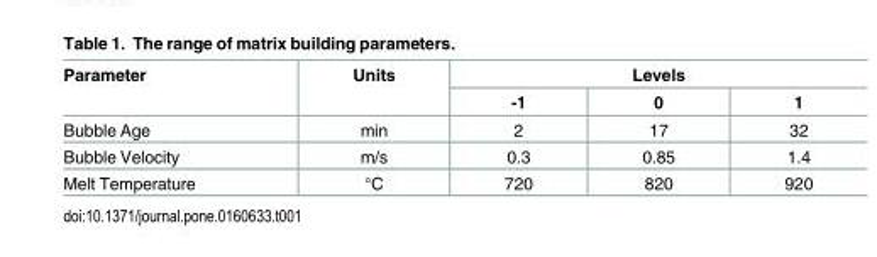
<table><thead><tr><td rowspan="2">Parameter</td><td rowspan="2">Units</td><td colspan="3">Levels</td></tr><tr><td>-1</td><td>0</td><td>1</td></tr></thead><tbody><tr><td>Bubble Age</td><td>min</td><td>2</td><td>17</td><td>32</td></tr><tr><td>Bubble Velocity</td><td>m/s</td><td>0.3</td><td>0.85</td><td>1.4</td></tr><tr><td>Melt Temperature</td><td>°C</td><td>720</td><td>820</td><td>920</td></tr></tbody></table>